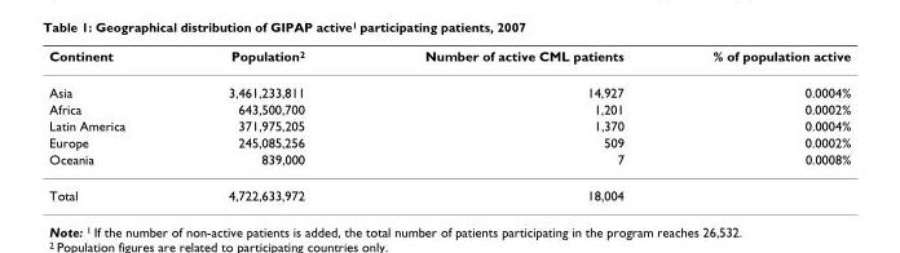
<table><thead><tr><td>Continent</td><td>Population<sup>2</sup></td><td>Number of active CML patients</td><td>% of population active</td></tr></thead><tbody><tr><td>Asia</td><td>3,461,233,811</td><td>14,927</td><td>0.0004%</td></tr><tr><td>Africa</td><td>643,500,700</td><td>1,201</td><td>0.0002%</td></tr><tr><td>Latin America</td><td>371,975,205</td><td>1,370</td><td>0.0004%</td></tr><tr><td>Europe</td><td>245,085,256</td><td>509</td><td>0.0002%</td></tr><tr><td>Oceania</td><td>839,000</td><td>7</td><td>0.0008%</td></tr><tr><td>Total</td><td>4,722,633,972</td><td>18,004</td><td></td></tr></tbody></table>